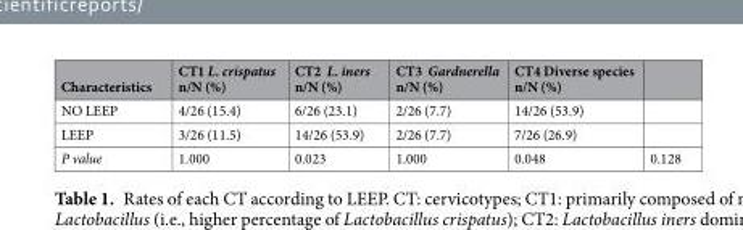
<table><thead><tr><td>Characteristics</td><td>CT1 L. crispatus n/N (%)</td><td>CT2 L. iners n/N (%)</td><td>CT3 Gardnerella n/N (%)</td><td>CT4 Diverse species n/N (%)</td><td></td></tr></thead><tbody><tr><td>NO LEEP</td><td>4/26 (15.4)</td><td>6/26 (23.1)</td><td>2/26 (7.7)</td><td>14/26 (53.9)</td><td></td></tr><tr><td>LEEP</td><td>3/26 (11.5)</td><td>14/26 (53.9)</td><td>2/26 (7.7)</td><td>7/26 (26.9)</td><td></td></tr><tr><td>P value</td><td>1.000</td><td>0.023</td><td>1.000</td><td>0.048</td><td>0.128</td></tr></tbody></table>